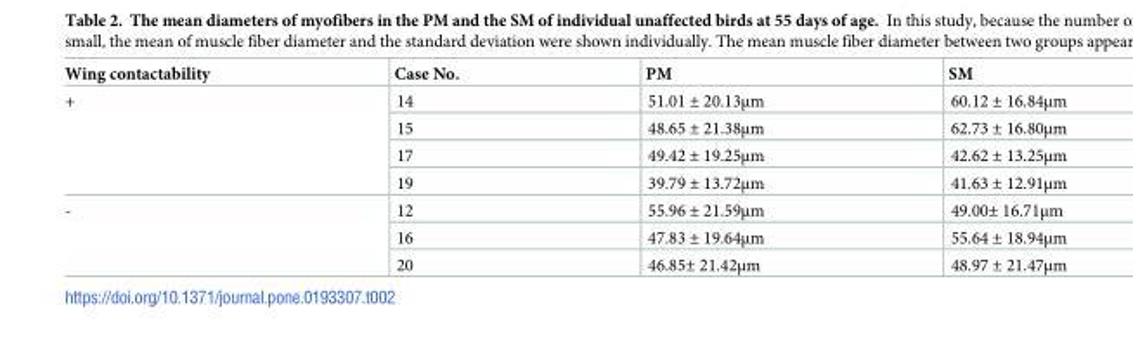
<table><thead><tr><td>Wing contactability</td><td>Case No.</td><td>PM</td><td>SM</td></tr></thead><tbody><tr><td rowspan="4">+</td><td>14</td><td>51.01 ± 20.13μm</td><td>60.12 ± 16.84μm</td></tr><tr><td>15</td><td>48.65 ± 21.38μm</td><td>62.73 ± 16.80μm</td></tr><tr><td>17</td><td>49.42 ± 19.25μm</td><td>42.62 ± 13.25μm</td></tr><tr><td>19</td><td>39.79 ± 13.72μm</td><td>41.63 ± 12.91μm</td></tr><tr><td rowspan="3">-</td><td>12</td><td>55.96 ± 21.59μm</td><td>49.00± 16.71μm</td></tr><tr><td>16</td><td>47.83 ± 19.64μm</td><td>55.64 ± 18.94μm</td></tr><tr><td>20</td><td>46.85± 21.42μm</td><td>48.97 ± 21.47μm</td></tr></tbody></table>